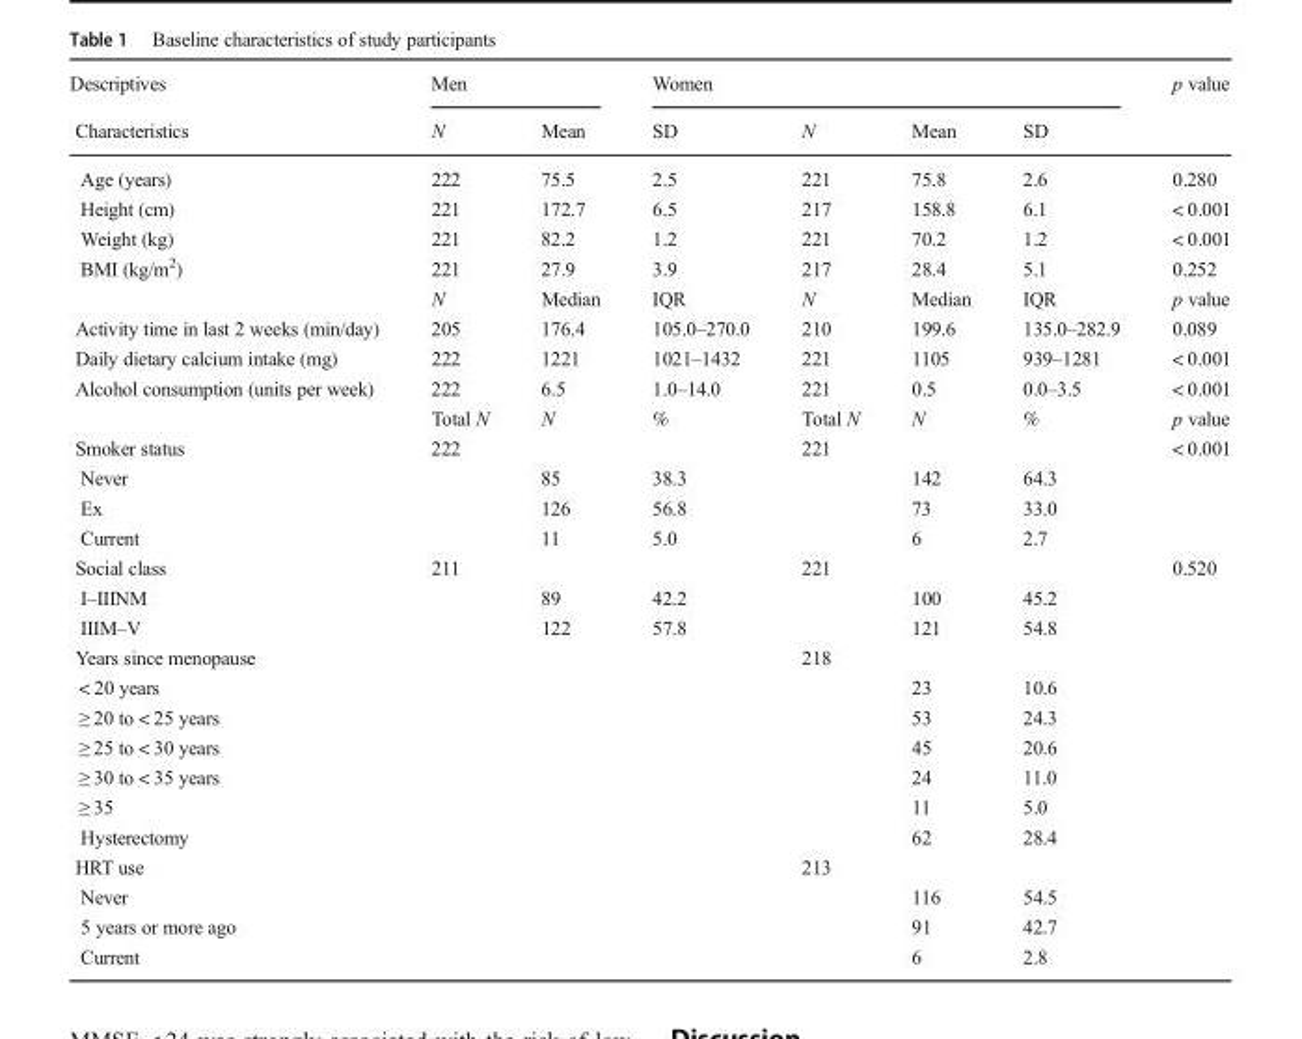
<table><thead><tr><td rowspan="2">Descriptives Characteristics</td><td colspan="2">Men</td><td colspan="4">Women</td><td rowspan="2">p value</td></tr><tr><td>N</td><td>Mean</td><td>SD</td><td>N</td><td>Mean</td><td>SD</td></tr></thead><tbody><tr><td>Age (years)</td><td>222</td><td>75.5</td><td>2.5</td><td>221</td><td>75.8</td><td>2.6</td><td>0.280</td></tr><tr><td>Height (cm)</td><td>221</td><td>172.7</td><td>6.5</td><td>217</td><td>158.8</td><td>6.1</td><td>&lt; 0.001</td></tr><tr><td>Weight (kg)</td><td>221</td><td>82.2</td><td>1.2</td><td>221</td><td>70.2</td><td>1.2</td><td>&lt; 0.001</td></tr><tr><td rowspan="2">BMI (kg/m<sup>2</sup>)</td><td>221</td><td>27.9</td><td>3.9</td><td>217</td><td>28.4</td><td>5.1</td><td>0.252</td></tr><tr><td>N</td><td>Median</td><td>IQR</td><td>N</td><td>Median</td><td>IQR</td><td>p value</td></tr><tr><td>Activity time in last 2 weeks (min/day)</td><td>205</td><td>176.4</td><td>105.0–270.0</td><td>210</td><td>199.6</td><td>135.0–282.9</td><td>0.089</td></tr><tr><td>Daily dietary calcium intake (mg)</td><td>222</td><td>1221</td><td>1021–1432</td><td>221</td><td>1105</td><td>939–1281</td><td>&lt; 0.001</td></tr><tr><td rowspan="2">Alcohol consumption (units per week)</td><td>222</td><td>6.5</td><td>1.0–14.0</td><td>221</td><td>0.5</td><td>0.0–3.5</td><td>&lt; 0.001</td></tr><tr><td>Total N</td><td>N</td><td>%</td><td>Total N</td><td>N</td><td>%</td><td>p value</td></tr><tr><td>Smoker status</td><td>222</td><td></td><td></td><td>221</td><td></td><td></td><td>&lt; 0.001</td></tr><tr><td>Never</td><td></td><td>85</td><td>38.3</td><td></td><td>142</td><td>64.3</td><td></td></tr><tr><td>Ex</td><td></td><td>126</td><td>56.8</td><td></td><td>73</td><td>33.0</td><td></td></tr><tr><td>Current</td><td></td><td>11</td><td>5.0</td><td></td><td>6</td><td>2.7</td><td></td></tr><tr><td>Social class</td><td>211</td><td></td><td></td><td>221</td><td></td><td></td><td>0.520</td></tr><tr><td>I–IIINM</td><td></td><td>89</td><td>42.2</td><td></td><td>100</td><td>45.2</td><td></td></tr><tr><td>IIIM–V</td><td></td><td>122</td><td>57.8</td><td></td><td>121</td><td>54.8</td><td></td></tr><tr><td>Years since menopause</td><td></td><td></td><td></td><td>218</td><td></td><td></td><td></td></tr><tr><td>&lt; 20 years</td><td></td><td></td><td></td><td></td><td>23</td><td>10.6</td><td></td></tr><tr><td>≥ 20 to &lt; 25 years</td><td></td><td></td><td></td><td></td><td>53</td><td>24.3</td><td></td></tr><tr><td>≥ 25 to &lt; 30 years</td><td></td><td></td><td></td><td></td><td>45</td><td>20.6</td><td></td></tr><tr><td>≥ 30 to &lt; 35 years</td><td></td><td></td><td></td><td></td><td>24</td><td>11.0</td><td></td></tr><tr><td>≥ 35</td><td></td><td></td><td></td><td></td><td>11</td><td>5.0</td><td></td></tr><tr><td>Hysterectomy</td><td></td><td></td><td></td><td></td><td>62</td><td>28.4</td><td></td></tr><tr><td>HRT use</td><td></td><td></td><td></td><td>213</td><td></td><td></td><td></td></tr><tr><td>Never</td><td></td><td></td><td></td><td></td><td>116</td><td>54.5</td><td></td></tr><tr><td>5 years or more ago</td><td></td><td></td><td></td><td></td><td>91</td><td>42.7</td><td></td></tr><tr><td>Current</td><td></td><td></td><td></td><td></td><td>6</td><td>2.8</td><td></td></tr></tbody></table>